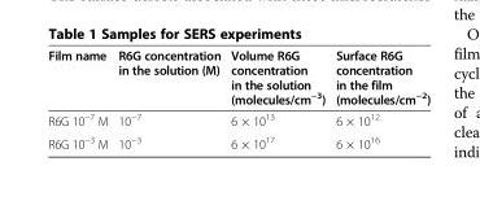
<table><thead><tr><td>Film name</td><td>R6G concentration in the solution (M)</td><td>Volume R6G concentration in the solution (molecules/cm<sup>−3</sup>)</td><td>Surface R6G concentration in the film (molecules/cm<sup>−2</sup>)</td></tr></thead><tbody><tr><td>R6G 10<sup>−7</sup> M</td><td>10<sup>−7</sup></td><td>6 × 10<sup>13</sup></td><td>6 × 10<sup>12</sup></td></tr><tr><td>R6G 10<sup>−3</sup> M</td><td>10<sup>−3</sup></td><td>6 × 10<sup>17</sup></td><td>6 × 10<sup>16</sup></td></tr></tbody></table>